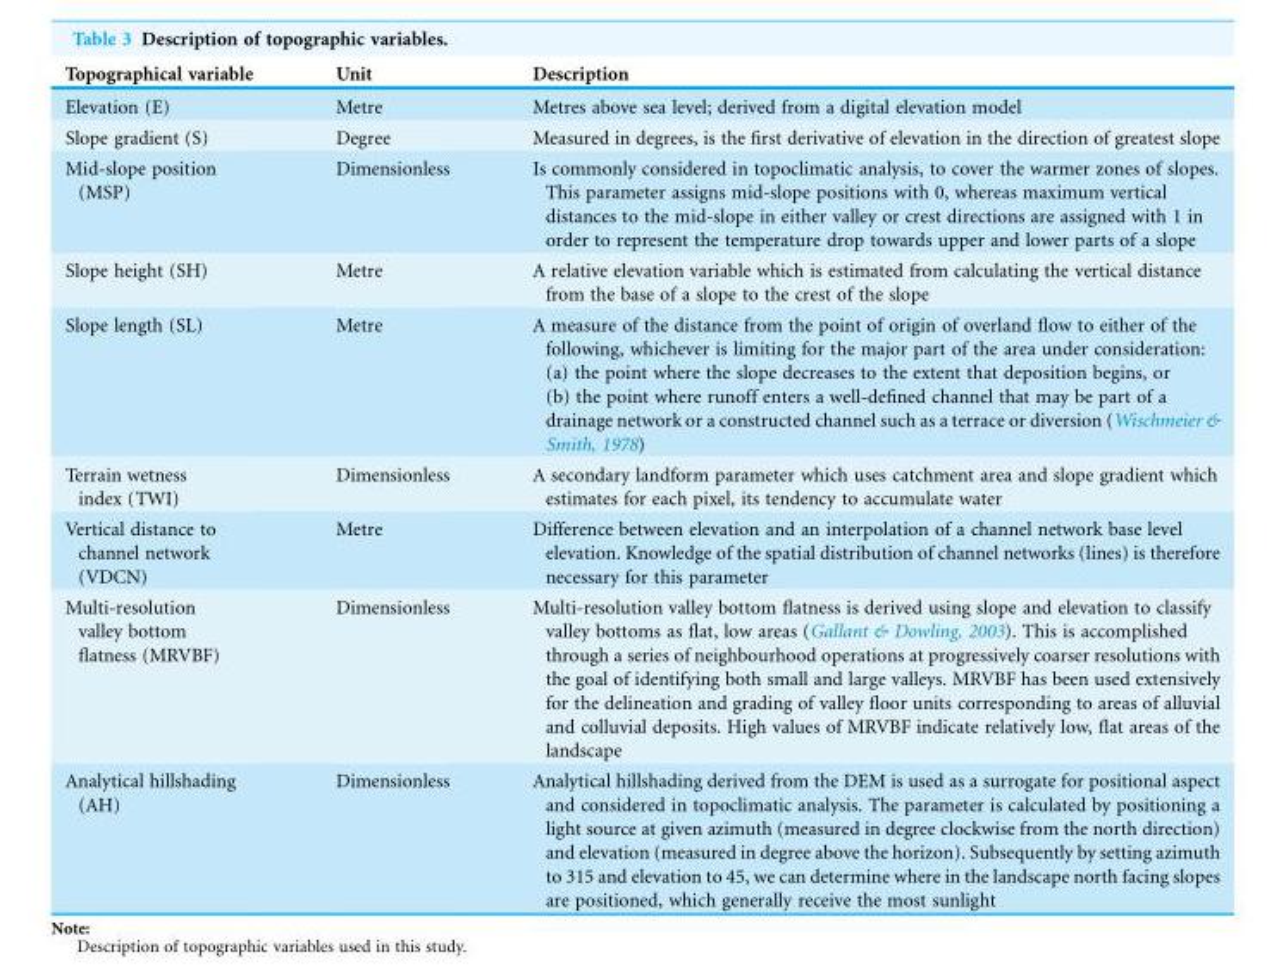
<table><thead><tr><td>Topographical variable</td><td>Unit</td><td>Description</td></tr></thead><tbody><tr><td>Elevation (E)</td><td>Metre</td><td>Metres above sea level; derived from a digital elevation model</td></tr><tr><td>Slope gradient (S)</td><td>Degree</td><td>Measured in degrees, is the first derivative of elevation in the direction of greatest slope</td></tr><tr><td>Mid-slope position (MSP)</td><td>Dimensionless</td><td>Is commonly considered in topoclimatic analysis, to cover the warmer zones of slopes. This parameter assigns mid-slope positions with 0, whereas maximum vertical distances to the mid-slope in either valley or crest directions are assigned with 1 in order to represent the temperature drop towards upper and lower parts of a slope</td></tr><tr><td>Slope height (SH)</td><td>Metre</td><td>A relative elevation variable which is estimated from calculating the vertical distance from the base of a slope to the crest of the slope</td></tr><tr><td>Slope length (SL)</td><td>Metre</td><td>A measure of the distance from the point of origin of overland flow to either of the following, whichever is limiting for the major part of the area under consideration: (a) the point where the slope decreases to the extent that deposition begins, or (b) the point where runoff enters a well-defined channel that may be part of a drainage network or a constructed channel such as a terrace or diversion (Wischmeier &amp; Smith, 1978)</td></tr><tr><td>Terrain wetness index (TWI)</td><td>Dimensionless</td><td>A secondary landform parameter which uses catchment area and slope gradient which estimates for each pixel, its tendency to accumulate water</td></tr><tr><td>Vertical distance to channel network (VDCN)</td><td>Metre</td><td>Difference between elevation and an interpolation of a channel network base level elevation. Knowledge of the spatial distribution of channel networks (lines) is therefore necessary for this parameter</td></tr><tr><td>Multi-resolution valley bottom flatness (MRVBF)</td><td>Dimensionless</td><td>Multi-resolution valley bottom flatness is derived using slope and elevation to classify valley bottoms as flat, low areas (Gallant &amp; Dowling, 2003). This is accomplished through a series of neighbourhood operations at progressively coarser resolutions with the goal of identifying both small and large valleys. MRVBF has been used extensively for the delineation and grading of valley floor units corresponding to areas of alluvial and colluvial deposits. High values of MRVBF indicate relatively low, flat areas of the landscape</td></tr><tr><td>Analytical hillshading (AH)</td><td>Dimensionless</td><td>Analytical hillshading derived from the DEM is used as a surrogate for positional aspect and considered in topoclimatic analysis. The parameter is calculated by positioning a light source at given azimuth (measured in degree clockwise from the north direction) and elevation (measured in degree above the horizon). Subsequently by setting azimuth to 315 and elevation to 45, we can determine where in the landscape north facing slopes are positioned, which generally receive the most sunlight</td></tr></tbody></table>